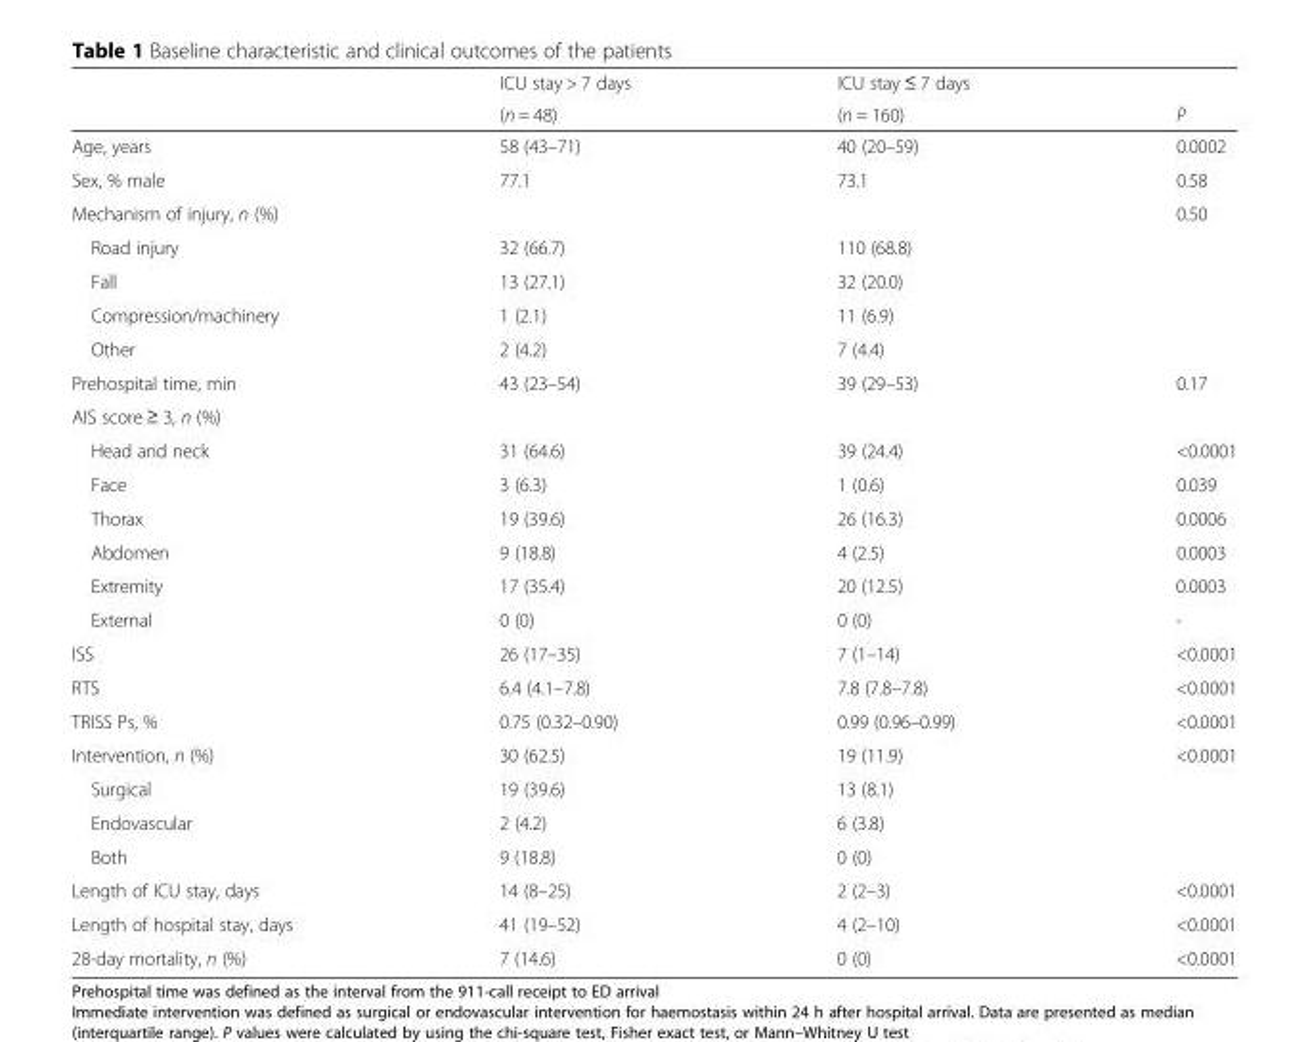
<table><thead><tr><td rowspan="2"></td><td rowspan="2">ICU stay &gt; 7 days (n = 48)</td><td rowspan="2">ICU stay ≤ 7 days (n = 160)</td><td rowspan="2">P</td></tr><tr></tr></thead><tbody><tr><td>Age, years</td><td>58 (43–71)</td><td>40 (20–59)</td><td>0.0002</td></tr><tr><td>Sex, % male</td><td>77.1</td><td>73.1</td><td>0.58</td></tr><tr><td>Mechanism of injury, n (%)</td><td></td><td></td><td>0.50</td></tr><tr><td>Road injury</td><td>32 (66.7)</td><td>110 (68.8)</td><td></td></tr><tr><td>Fall</td><td>13 (27.1)</td><td>32 (20.0)</td><td></td></tr><tr><td>Compression/machinery</td><td>1 (2.1)</td><td>11 (6.9)</td><td></td></tr><tr><td>Other</td><td>2 (4.2)</td><td>7 (4.4)</td><td></td></tr><tr><td>Prehospital time, min</td><td>43 (23–54)</td><td>39 (29–53)</td><td>0.17</td></tr><tr><td colspan="4">AIS score ≥ 3, n (%)</td></tr><tr><td>Head and neck</td><td>31 (64.6)</td><td>39 (24.4)</td><td>&lt;0.0001</td></tr><tr><td>Face</td><td>3 (6.3)</td><td>1 (0.6)</td><td>0.039</td></tr><tr><td>Thorax</td><td>19 (39.6)</td><td>26 (16.3)</td><td>0.0006</td></tr><tr><td>Abdomen</td><td>9 (18.8)</td><td>4 (2.5)</td><td>0.0003</td></tr><tr><td>Extremity</td><td>17 (35.4)</td><td>20 (12.5)</td><td>0.0003</td></tr><tr><td>External</td><td>0 (0)</td><td>0 (0)</td><td>-</td></tr><tr><td>ISS</td><td>26 (17–35)</td><td>7 (1–14)</td><td>&lt;0.0001</td></tr><tr><td>RTS</td><td>6.4 (4.1–7.8)</td><td>7.8 (7.8–7.8)</td><td>&lt;0.0001</td></tr><tr><td>TRISS Ps, %</td><td>0.75 (0.32–0.90)</td><td>0.99 (0.96–0.99)</td><td>&lt;0.0001</td></tr><tr><td>Intervention, n (%)</td><td>30 (62.5)</td><td>19 (11.9)</td><td>&lt;0.0001</td></tr><tr><td>Surgical</td><td>19 (39.6)</td><td>13 (8.1)</td><td></td></tr><tr><td>Endovascular</td><td>2 (4.2)</td><td>6 (3.8)</td><td></td></tr><tr><td>Both</td><td>9 (18.8)</td><td>0 (0)</td><td></td></tr><tr><td>Length of ICU stay, days</td><td>14 (8–25)</td><td>2 (2–3)</td><td>&lt;0.0001</td></tr><tr><td>Length of hospital stay, days</td><td>41 (19–52)</td><td>4 (2–10)</td><td>&lt;0.0001</td></tr><tr><td>28-day mortality, n (%)</td><td>7 (14.6)</td><td>0 (0)</td><td>&lt;0.0001</td></tr></tbody></table>